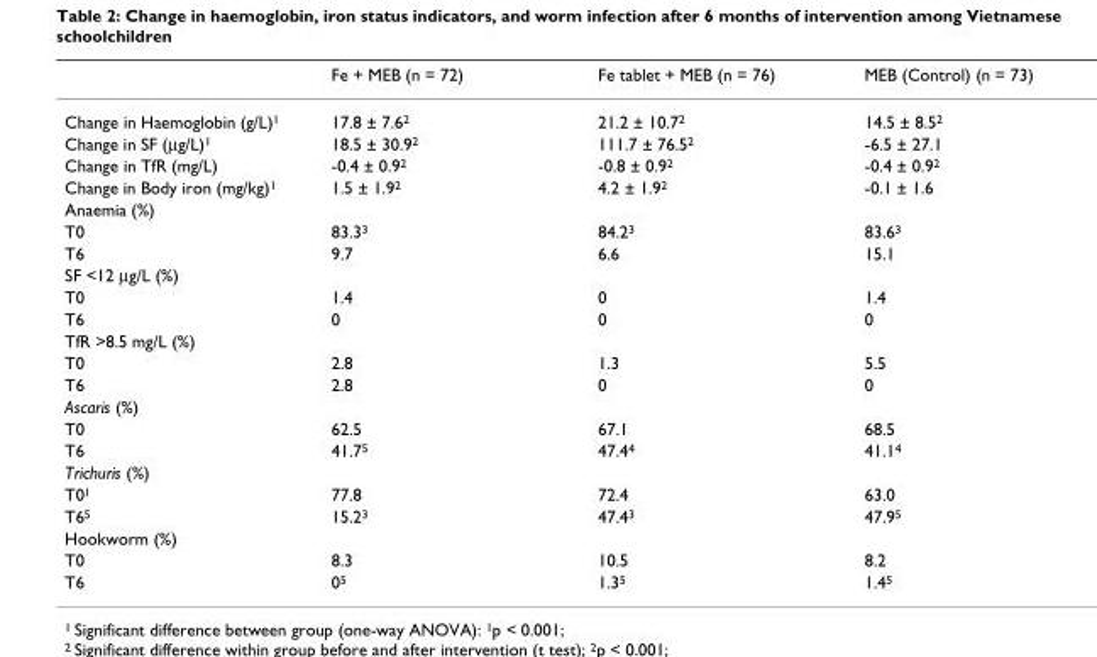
<table><thead><tr><td></td><td>Fe + MEB (n = 72)</td><td>Fe tablet + MEB (n = 76)</td><td>MEB (Control) (n = 73)</td></tr></thead><tbody><tr><td>Change in Haemoglobin (g/L)<sup>1</sup></td><td>17.8 ± 7.6<sup>2</sup></td><td>21.2 ± 10.7<sup>2</sup></td><td>14.5 ± 8.5<sup>2</sup></td></tr><tr><td>Change in SF (μg/L)<sup>1</sup></td><td>18.5 ± 30.9<sup>2</sup></td><td>111.7 ± 76.5<sup>2</sup></td><td>-6.5 ± 27.1</td></tr><tr><td>Change in TfR (mg/L)</td><td>-0.4 ± 0.9<sup>2</sup></td><td>-0.8 ± 0.9<sup>2</sup></td><td>-0.4 ± 0.9<sup>2</sup></td></tr><tr><td>Change in Body iron (mg/kg)<sup>1</sup></td><td>1.5 ± 1.9<sup>2</sup></td><td>4.2 ± 1.9<sup>2</sup></td><td>-0.1 ± 1.6</td></tr><tr><td colspan="4">Anaemia (%)</td></tr><tr><td>T0</td><td>83.3<sup>3</sup></td><td>84.2<sup>3</sup></td><td>83.6<sup>3</sup></td></tr><tr><td>T6</td><td>9.7</td><td>6.6</td><td>15.1</td></tr><tr><td colspan="4">SF &lt;12 μg/L (%)</td></tr><tr><td>T0</td><td>1.4</td><td>0</td><td>1.4</td></tr><tr><td>T6</td><td>0</td><td>0</td><td>0</td></tr><tr><td colspan="4">TfR &gt;8.5 mg/L (%)</td></tr><tr><td>T0</td><td>2.8</td><td>1.3</td><td>5.5</td></tr><tr><td>T6</td><td>2.8</td><td>0</td><td>0</td></tr><tr><td colspan="4">Ascaris (%)</td></tr><tr><td>T0</td><td>62.5</td><td>67.1</td><td>68.5</td></tr><tr><td>T6</td><td>41.7<sup>5</sup></td><td>47.4<sup>4</sup></td><td>41.1<sup>4</sup></td></tr><tr><td colspan="4">Trichuris (%)</td></tr><tr><td>T0<sup>1</sup></td><td>77.8</td><td>72.4</td><td>63.0</td></tr><tr><td>T6<sup>5</sup></td><td>15.2<sup>3</sup></td><td>47.4<sup>3</sup></td><td>47.9<sup>5</sup></td></tr><tr><td colspan="4">Hookworm (%)</td></tr><tr><td>T0</td><td>8.3</td><td>10.5</td><td>8.2</td></tr><tr><td>T6</td><td>0<sup>5</sup></td><td>1.3<sup>5</sup></td><td>1.4<sup>5</sup></td></tr></tbody></table>